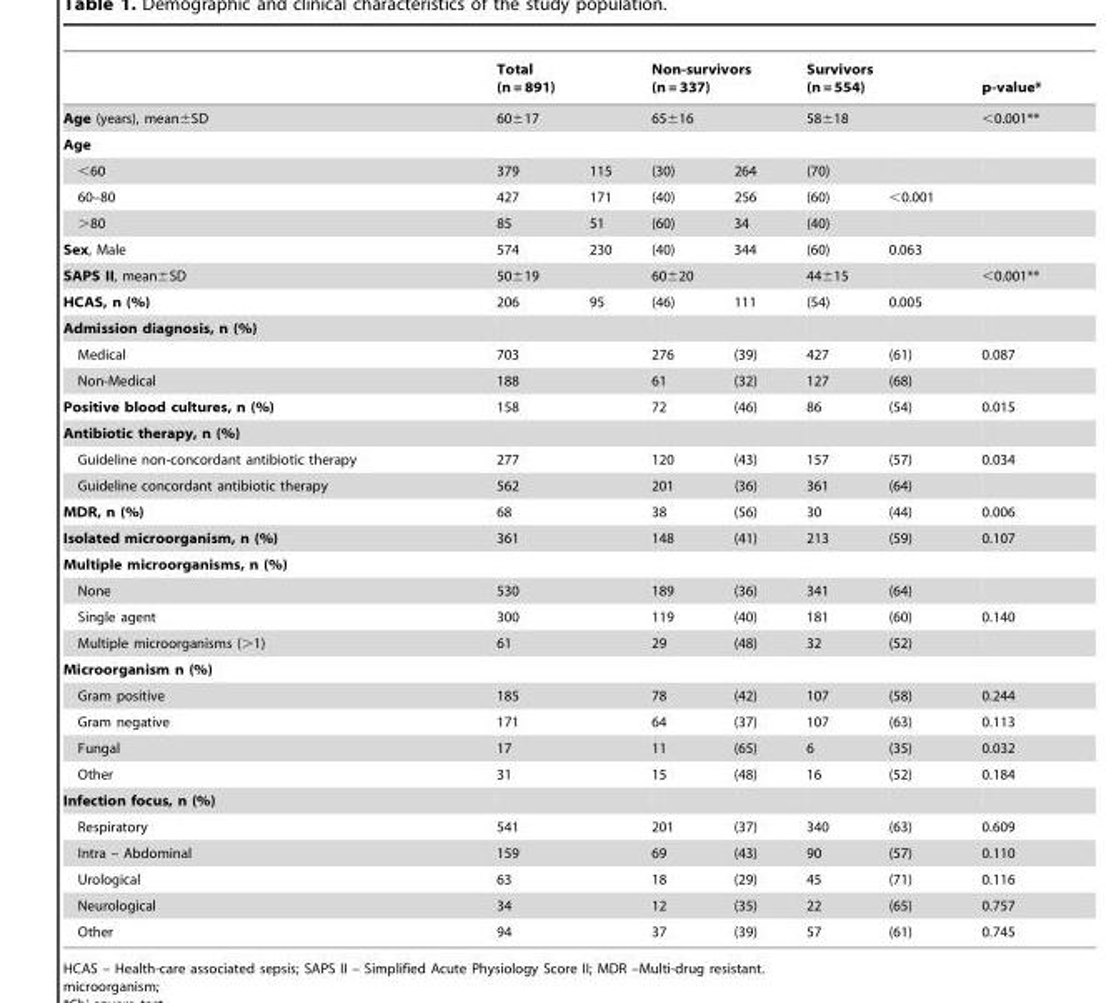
<table><thead><tr><td rowspan="3">Age (years), mean±SD Age</td><td rowspan="2" colspan="2">Total (n = 891) 60±17</td><td rowspan="2" colspan="2">Non-survivors (n = 337) 65±16</td><td rowspan="2" colspan="2">Survivors (n = 554) 58±18</td><td rowspan="3">p-value* &lt;0.001**</td></tr><tr></tr><tr><td></td><td></td><td></td><td></td><td></td><td></td></tr></thead><tbody><tr><td>&lt;60</td><td>379</td><td>115</td><td>(30)</td><td>264</td><td>(70)</td><td></td><td></td></tr><tr><td>60–80</td><td>427</td><td>171</td><td>(40)</td><td>256</td><td>(60)</td><td>&lt;0.001</td><td></td></tr><tr><td>&gt;80</td><td>85</td><td>51</td><td>(60)</td><td>34</td><td>(40)</td><td></td><td></td></tr><tr><td>Sex, Male</td><td>574</td><td>230</td><td>(40)</td><td>344</td><td>(60)</td><td>0.063</td><td></td></tr><tr><td>SAPS II, mean±SD</td><td>50±19</td><td></td><td>60±20</td><td></td><td>44±15</td><td></td><td>&lt;0.001**</td></tr><tr><td>HCAS, n (%)</td><td>206</td><td>95</td><td>(46)</td><td>111</td><td>(54)</td><td>0.005</td><td></td></tr><tr><td colspan="8">Admission diagnosis, n (%)</td></tr><tr><td>Medical</td><td colspan="2">703</td><td>276</td><td>(39)</td><td>427</td><td>(61)</td><td>0.087</td></tr><tr><td>Non-Medical</td><td colspan="2">188</td><td>61</td><td>(32)</td><td>127</td><td>(68)</td><td></td></tr><tr><td>Positive blood cultures, n (%)</td><td colspan="2">158</td><td>72</td><td>(46)</td><td>86</td><td>(54)</td><td>0.015</td></tr><tr><td colspan="8">Antibiotic therapy, n (%)</td></tr><tr><td>Guideline non-concordant antibiotic therapy</td><td colspan="2">277</td><td>120</td><td>(43)</td><td>157</td><td>(57)</td><td>0.034</td></tr><tr><td>Guideline concordant antibiotic therapy</td><td colspan="2">562</td><td>201</td><td>(36)</td><td>361</td><td>(64)</td><td></td></tr><tr><td>MDR, n (%)</td><td colspan="2">68</td><td>38</td><td>(56)</td><td>30</td><td>(44)</td><td>0.006</td></tr><tr><td>Isolated microorganism, n (%)</td><td colspan="2">361</td><td>148</td><td>(41)</td><td>213</td><td>(59)</td><td>0.107</td></tr><tr><td colspan="8">Multiple microorganisms, n (%)</td></tr><tr><td>None</td><td colspan="2">530</td><td>189</td><td>(36)</td><td>341</td><td>(64)</td><td></td></tr><tr><td>Single agent</td><td colspan="2">300</td><td>119</td><td>(40)</td><td>181</td><td>(60)</td><td>0.140</td></tr><tr><td>Multiple microorganisms (&gt;1)</td><td colspan="2">61</td><td>29</td><td>(48)</td><td>32</td><td>(52)</td><td></td></tr><tr><td colspan="8">Microorganism n (%)</td></tr><tr><td>Gram positive</td><td colspan="2">185</td><td>78</td><td>(42)</td><td>107</td><td>(58)</td><td>0.244</td></tr><tr><td>Gram negative</td><td colspan="2">171</td><td>64</td><td>(37)</td><td>107</td><td>(63)</td><td>0.113</td></tr><tr><td>Fungal</td><td colspan="2">17</td><td>11</td><td>(65)</td><td>6</td><td>(35)</td><td>0.032</td></tr><tr><td>Other</td><td colspan="2">31</td><td>15</td><td>(48)</td><td>16</td><td>(52)</td><td>0.184</td></tr><tr><td colspan="8">Infection focus, n (%)</td></tr><tr><td>Respiratory</td><td colspan="2">541</td><td>201</td><td>(37)</td><td>340</td><td>(63)</td><td>0.609</td></tr><tr><td>Intra – Abdominal</td><td colspan="2">159</td><td>69</td><td>(43)</td><td>90</td><td>(57)</td><td>0.110</td></tr><tr><td>Urological</td><td colspan="2">63</td><td>18</td><td>(29)</td><td>45</td><td>(71)</td><td>0.116</td></tr><tr><td>Neurological</td><td colspan="2">34</td><td>12</td><td>(35)</td><td>22</td><td>(65)</td><td>0.757</td></tr><tr><td>Other</td><td colspan="2">94</td><td>37</td><td>(39)</td><td>57</td><td>(61)</td><td>0.745</td></tr></tbody></table>